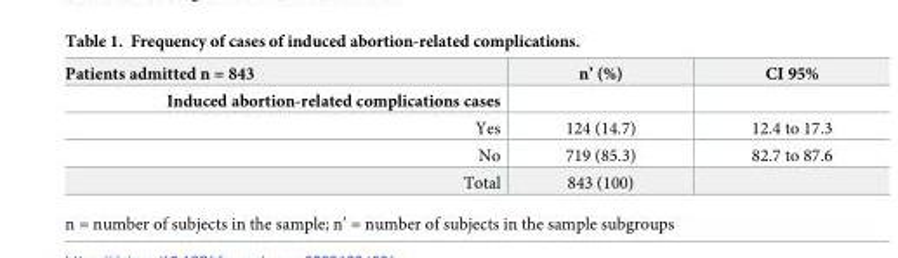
<table><thead><tr><td rowspan="2">Patients admitted n = 843 Induced abortion-related complications cases</td><td rowspan="2">n’ (%)</td><td rowspan="2">CI 95%</td></tr><tr></tr></thead><tbody><tr><td>Yes</td><td>124 (14.7)</td><td>12.4 to 17.3</td></tr><tr><td>No</td><td>719 (85.3)</td><td>82.7 to 87.6</td></tr><tr><td>Total</td><td>843 (100)</td><td></td></tr></tbody></table>